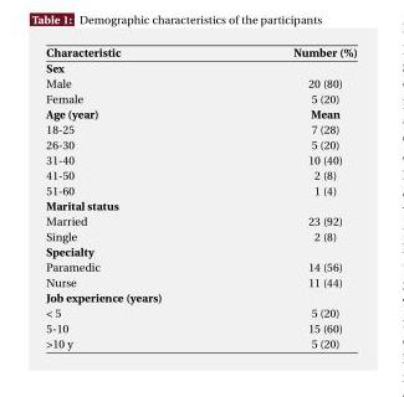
<table><thead><tr><td>Characteristic</td><td>Number (%)</td></tr></thead><tbody><tr><td colspan="2">Sex</td></tr><tr><td>Male</td><td>20 (80)</td></tr><tr><td>Female</td><td>5 (20)</td></tr><tr><td>Age (year)</td><td>Mean</td></tr><tr><td>18-25</td><td>7 (28)</td></tr><tr><td>26-30</td><td>5 (20)</td></tr><tr><td>31-40</td><td>10 (40)</td></tr><tr><td>41-50</td><td>2 (8)</td></tr><tr><td>51-60</td><td>1 (4)</td></tr><tr><td colspan="2">Marital status</td></tr><tr><td>Married</td><td>23 (92)</td></tr><tr><td>Single</td><td>2 (8)</td></tr><tr><td colspan="2">Specialty</td></tr><tr><td>Paramedic</td><td>14 (56)</td></tr><tr><td>Nurse</td><td>11 (44)</td></tr><tr><td colspan="2">Job experience (years)</td></tr><tr><td>&lt; 5</td><td>5 (20)</td></tr><tr><td>5-10</td><td>15 (60)</td></tr><tr><td>&gt;10 y</td><td>5 (20)</td></tr></tbody></table>